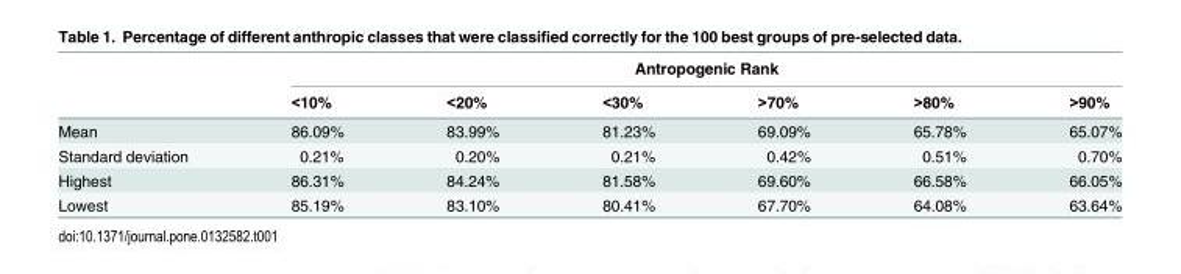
<table><thead><tr><td rowspan="2"></td><td colspan="6">Antropogenic Rank</td></tr><tr><td>&lt;10%</td><td>&lt;20%</td><td>&lt;30%</td><td>&gt;70%</td><td>&gt;80%</td><td>&gt;90%</td></tr></thead><tbody><tr><td>Mean</td><td>86.09%</td><td>83.99%</td><td>81.23%</td><td>69.09%</td><td>65.78%</td><td>65.07%</td></tr><tr><td>Standard deviation</td><td>0.21%</td><td>0.20%</td><td>0.21%</td><td>0.42%</td><td>0.51%</td><td>0.70%</td></tr><tr><td>Highest</td><td>86.31%</td><td>84.24%</td><td>81.58%</td><td>69.60%</td><td>66.58%</td><td>66.05%</td></tr><tr><td>Lowest</td><td>85.19%</td><td>83.10%</td><td>80.41%</td><td>67.70%</td><td>64.08%</td><td>63.64%</td></tr></tbody></table>